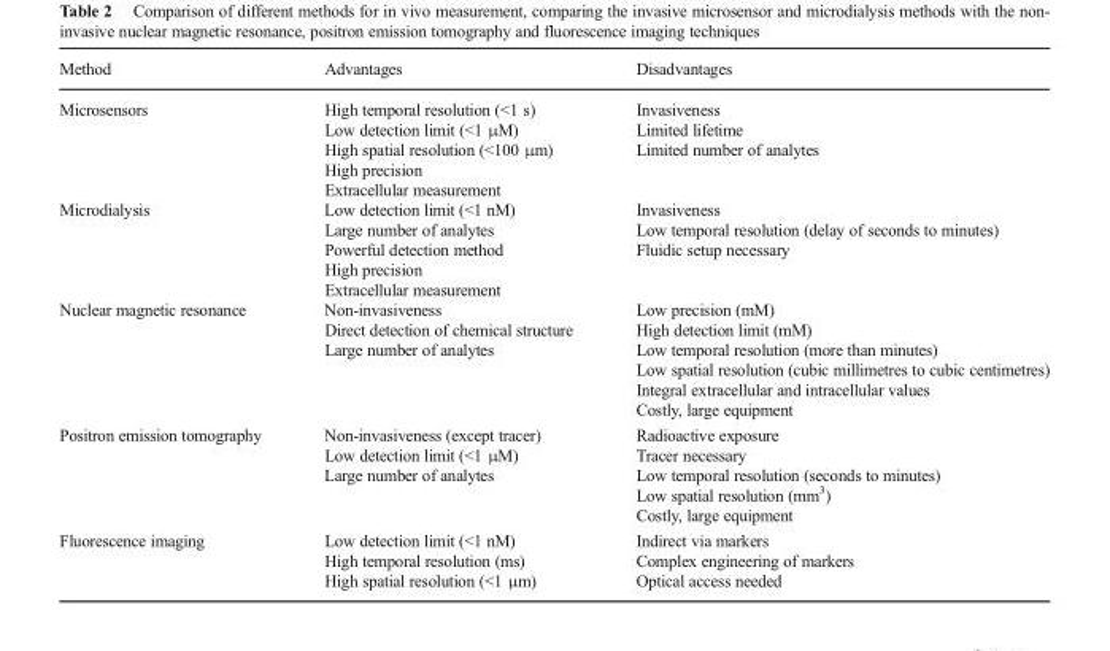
<table><thead><tr><td>Method</td><td>Advantages</td><td>Disadvantages</td></tr></thead><tbody><tr><td>Microsensors</td><td>High temporal resolution (&lt;1 s) Low detection limit (&lt;1 μM) High spatial resolution (&lt;100 μm) High precision Extracellular measurement</td><td>Invasiveness Limited lifetime Limited number of analytes</td></tr><tr><td>Microdialysis</td><td>Low detection limit (&lt;1 nM) Large number of analytes Powerful detection method High precision Extracellular measurement</td><td>Invasiveness Low temporal resolution (delay of seconds to minutes) Fluidic setup necessary</td></tr><tr><td>Nuclear magnetic resonance</td><td>Non-invasiveness Direct detection of chemical structure Large number of analytes</td><td>Low precision (mM) High detection limit (mM) Low temporal resolution (more than minutes) Low spatial resolution (cubic millimetres to cubic centimetres) Integral extracellular and intracellular values Costly, large equipment</td></tr><tr><td>Positron emission tomography</td><td>Non-invasiveness (except tracer) Low detection limit (&lt;1 μM) Large number of analytes</td><td>Radioactive exposure Tracer necessary Low temporal resolution (seconds to minutes) Low spatial resolution (mm<sup>3</sup>) Costly, large equipment</td></tr><tr><td>Fluorescence imaging</td><td>Low detection limit (&lt;1 nM) High temporal resolution (ms) High spatial resolution (&lt;1 μm)</td><td>Indirect via markers Complex engineering of markers Optical access needed</td></tr></tbody></table>